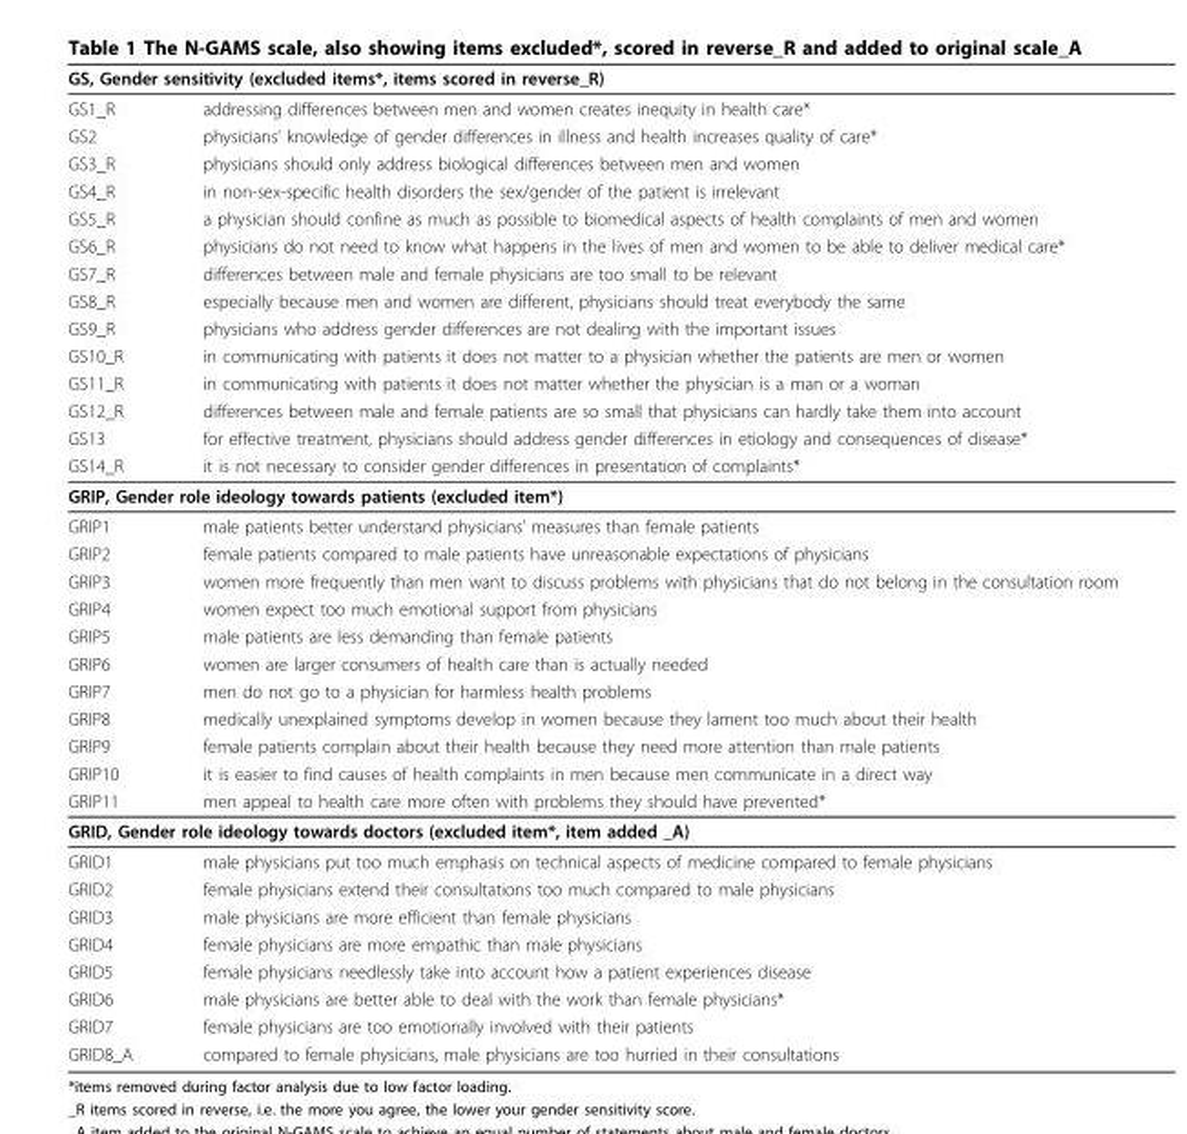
<table><thead><tr><td colspan="2">GS, Gender sensitivity (excluded items*, items scored in reverse_R)</td></tr><tr><td>GS1_R</td><td>addressing differences between men and women creates inequity in health care*</td></tr></thead><tbody><tr><td>GS2</td><td>physicians’ knowledge of gender differences in illness and health increases quality of care*</td></tr><tr><td>GS3_R</td><td>physicians should only address biological differences between men and women</td></tr><tr><td>GS4_R</td><td>in non-sex-specific health disorders the sex/gender of the patient is irrelevant</td></tr><tr><td>GS5_R</td><td>a physician should confine as much as possible to biomedical aspects of health complaints of men and women</td></tr><tr><td>GS6_R</td><td>physicians do not need to know what happens in the lives of men and women to be able to deliver medical care*</td></tr><tr><td>GS7_R</td><td>differences between male and female physicians are too small to be relevant</td></tr><tr><td>GS8_R</td><td>especially because men and women are different, physicians should treat everybody the same</td></tr><tr><td>GS9_R</td><td>physicians who address gender differences are not dealing with the important issues</td></tr><tr><td>GS10_R</td><td>in communicating with patients it does not matter to a physician whether the patients are men or women</td></tr><tr><td>GS11_R</td><td>in communicating with patients it does not matter whether the physician is a man or a woman</td></tr><tr><td>GS12_R</td><td>differences between male and female patients are so small that physicians can hardly take them into account</td></tr><tr><td>GS13</td><td>for effective treatment, physicians should address gender differences in etiology and consequences of disease*</td></tr><tr><td>GS14_R</td><td>it is not necessary to consider gender differences in presentation of complaints*</td></tr><tr><td colspan="2">GRIP, Gender role ideology towards patients (excluded item*)</td></tr><tr><td>GRIP1</td><td>male patients better understand physicians’ measures than female patients</td></tr><tr><td>GRIP2</td><td>female patients compared to male patients have unreasonable expectations of physicians</td></tr><tr><td>GRIP3</td><td>women more frequently than men want to discuss problems with physicians that do not belong in the consultation room</td></tr><tr><td>GRIP4</td><td>women expect too much emotional support from physicians</td></tr><tr><td>GRIP5</td><td>male patients are less demanding than female patients</td></tr><tr><td>GRIP6</td><td>women are larger consumers of health care than is actually needed</td></tr><tr><td>GRIP7</td><td>men do not go to a physician for harmless health problems</td></tr><tr><td>GRIP8</td><td>medically unexplained symptoms develop in women because they lament too much about their health</td></tr><tr><td>GRIP9</td><td>female patients complain about their health because they need more attention than male patients</td></tr><tr><td>GRIP10</td><td>it is easier to find causes of health complaints in men because men communicate in a direct way</td></tr><tr><td>GRIP11</td><td>men appeal to health care more often with problems they should have prevented*</td></tr><tr><td colspan="2">GRID, Gender role ideology towards doctors (excluded item*, item added _A)</td></tr><tr><td>GRID1</td><td>male physicians put too much emphasis on technical aspects of medicine compared to female physicians</td></tr><tr><td>GRID2</td><td>female physicians extend their consultations too much compared to male physicians</td></tr><tr><td>GRID3</td><td>male physicians are more efficient than female physicians</td></tr><tr><td>GRID4</td><td>female physicians are more empathic than male physicians</td></tr><tr><td>GRID5</td><td>female physicians needlessly take into account how a patient experiences disease</td></tr><tr><td>GRID6</td><td>male physicians are better able to deal with the work than female physicians*</td></tr><tr><td>GRID7</td><td>female physicians are too emotionally involved with their patients</td></tr><tr><td>GRID8_A</td><td>compared to female physicians, male physicians are too hurried in their consultations</td></tr></tbody></table>